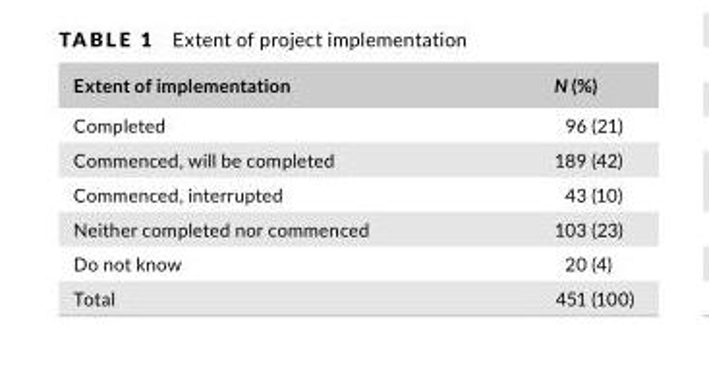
<table><thead><tr><td>Extent of implementation</td><td>N (%)</td></tr></thead><tbody><tr><td>Completed</td><td>96 (21)</td></tr><tr><td>Commenced, will be completed</td><td>189 (42)</td></tr><tr><td>Commenced, interrupted</td><td>43 (10)</td></tr><tr><td>Neither completed nor commenced</td><td>103 (23)</td></tr><tr><td>Do not know</td><td>20 (4)</td></tr><tr><td>Total</td><td>451 (100)</td></tr></tbody></table>